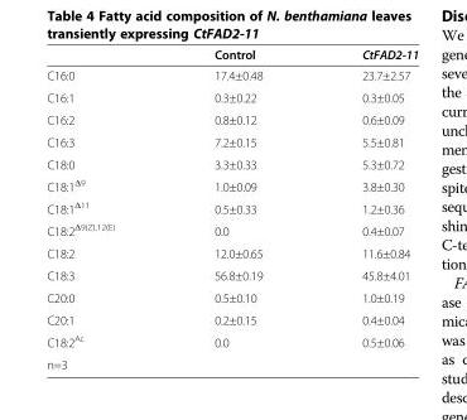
<table><thead><tr><td></td><td>Control</td><td>CtFAD2-11</td></tr></thead><tbody><tr><td>C16:0</td><td>17.4±0.48</td><td>23.7±2.57</td></tr><tr><td>C16:1</td><td>0.3±0.22</td><td>0.3±0.05</td></tr><tr><td>C16:2</td><td>0.8±0.12</td><td>0.6±0.09</td></tr><tr><td>C16:3</td><td>7.2±0.15</td><td>5.5±0.81</td></tr><tr><td>C18:0</td><td>3.3±0.33</td><td>5.3±0.72</td></tr><tr><td>C18:1<sup>Δ9</sup></td><td>1.0±0.09</td><td>3.8±0.30</td></tr><tr><td>C18:1<sup>Δ11</sup></td><td>0.5±0.33</td><td>1.2±0.36</td></tr><tr><td>C18:2<sup>Δ9(Z),12(E)</sup></td><td>0.0</td><td>0.4±0.07</td></tr><tr><td>C18:2</td><td>12.0±0.65</td><td>11.6±0.84</td></tr><tr><td>C18:3</td><td>56.8±0.19</td><td>45.8±4.01</td></tr><tr><td>C20:0</td><td>0.5±0.10</td><td>1.0±0.19</td></tr><tr><td>C20:1</td><td>0.2±0.15</td><td>0.4±0.04</td></tr><tr><td>C18:2<sup>Ac</sup></td><td>0.0</td><td>0.5±0.06</td></tr><tr><td>n=3</td><td></td><td></td></tr></tbody></table>